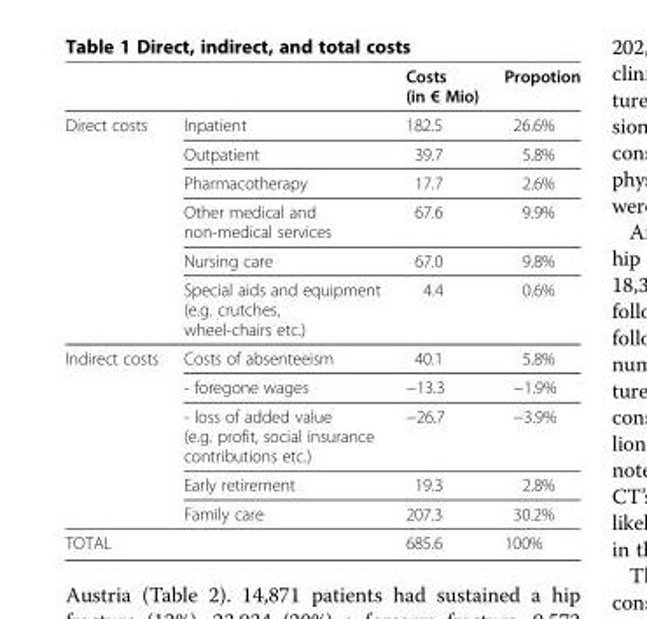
<table><thead><tr><td></td><td></td><td>Costs (in € Mio)</td><td>Propotion</td></tr></thead><tbody><tr><td rowspan="6">Direct costs</td><td>Inpatient</td><td>182.5</td><td>26.6%</td></tr><tr><td>Outpatient</td><td>39.7</td><td>5.8%</td></tr><tr><td>Pharmacotherapy</td><td>17.7</td><td>2.6%</td></tr><tr><td>Other medical and non-medical services</td><td>67.6</td><td>9.9%</td></tr><tr><td>Nursing care</td><td>67.0</td><td>9.8%</td></tr><tr><td>Special aids and equipment (e.g. crutches, wheel-chairs etc.)</td><td>4.4</td><td>0.6%</td></tr><tr><td rowspan="5">Indirect costs</td><td>Costs of absenteeism</td><td>40.1</td><td>5.8%</td></tr><tr><td>- foregone wages</td><td>−13.3</td><td>−1.9%</td></tr><tr><td>- loss of added value (e.g. profit, social insurance contributions etc.)</td><td>−26.7</td><td>−3.9%</td></tr><tr><td>Early retirement</td><td>19.3</td><td>2.8%</td></tr><tr><td>Family care</td><td>207.3</td><td>30.2%</td></tr><tr><td>TOTAL</td><td></td><td>685.6</td><td>100%</td></tr></tbody></table>